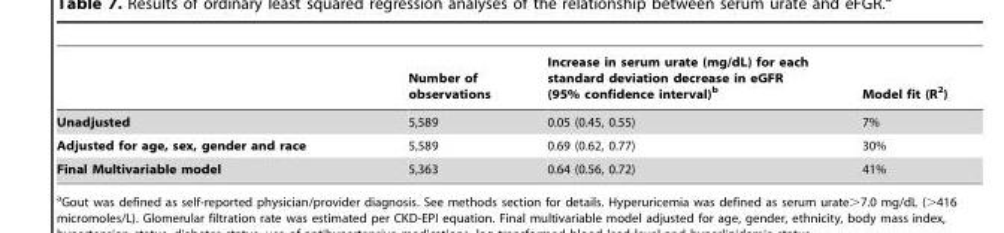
<table><thead><tr><td></td><td>Number of observations</td><td>Increase in serum urate (mg/dL) for each standard deviation decrease in eGFR (95% confidence interval)<sup>b</sup></td><td>Model fit (R<sup>2</sup>)</td></tr></thead><tbody><tr><td>Unadjusted</td><td>5,589</td><td>0.05 (0.45, 0.55)</td><td>7%</td></tr><tr><td>Adjusted for age, sex, gender and race</td><td>5,589</td><td>0.69 (0.62, 0.77)</td><td>30%</td></tr><tr><td>Final Multivariable model</td><td>5,363</td><td>0.64 (0.56, 0.72)</td><td>41%</td></tr></tbody></table>